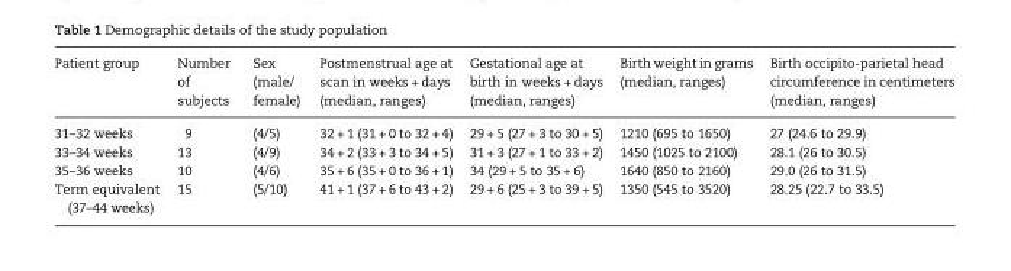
<table><thead><tr><td>Patient group</td><td>Number of subjects</td><td>Sex (male/ female)</td><td>Postmenstrual age at scan in weeks + days (median, ranges)</td><td>Gestational age at birth in weeks + days (median, ranges)</td><td>Birth weight in grams (median, ranges)</td><td>Birth occipito-parietal head circumference in centimeters (median, ranges)</td></tr></thead><tbody><tr><td>31–32 weeks</td><td>9</td><td>(4/5)</td><td>32 + 1 (31 + 0 to 32 + 4)</td><td>29 + 5 (27 + 3 to 30 + 5)</td><td>1210 (695 to 1650)</td><td>27 (24.6 to 29.9)</td></tr><tr><td>33–34 weeks</td><td>13</td><td>(4/9)</td><td>34 + 2 (33 + 3 to 34 + 5)</td><td>31 + 3 (27 + 1 to 33 + 2)</td><td>1450 (1025 to 2100)</td><td>28.1 (26 to 30.5)</td></tr><tr><td>35–36 weeks</td><td>10</td><td>(4/6)</td><td>35 + 6 (35 + 0 to 36 + 1)</td><td>34 (29 + 5 to 35 + 6)</td><td>1640 (850 to 2160)</td><td>29.0 (26 to 31.5)</td></tr><tr><td>Term equivalent (37–44 weeks)</td><td>15</td><td>(5/10)</td><td>41 + 1 (37 + 6 to 43 + 2)</td><td>29 + 6 (25 + 3 to 39 + 5)</td><td>1350 (545 to 3520)</td><td>28.25 (22.7 to 33.5)</td></tr></tbody></table>